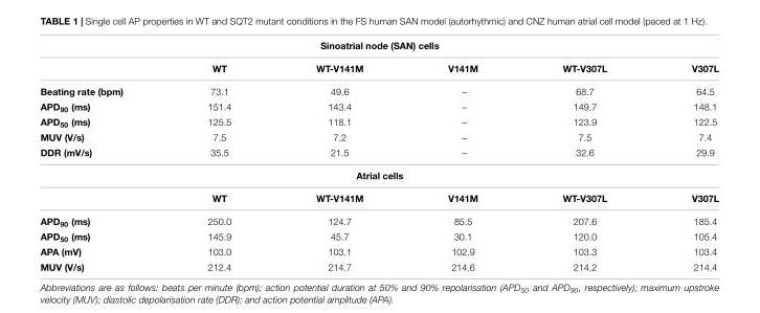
<table><thead><tr><td colspan="6">Sinoatrial node (SAN) cells</td></tr><tr><td></td><td>WT</td><td>WT-V141M</td><td>V141M</td><td>WT-V307L</td><td>V307L</td></tr></thead><tbody><tr><td>Beating rate (bpm)</td><td>73.1</td><td>49.6</td><td>–</td><td>68.7</td><td>64.5</td></tr><tr><td>APD<sub>90</sub> (ms)</td><td>151.4</td><td>143.4</td><td>–</td><td>149.7</td><td>148.1</td></tr><tr><td>APD<sub>50</sub> (ms)</td><td>125.5</td><td>118.1</td><td>–</td><td>123.9</td><td>122.5</td></tr><tr><td>MUV (V/s)</td><td>7.5</td><td>7.2</td><td>–</td><td>7.5</td><td>7.4</td></tr><tr><td>DDR (mV/s)</td><td>35.5</td><td>21.5</td><td>–</td><td>32.6</td><td>29.9</td></tr><tr><td colspan="6">Atrial cells</td></tr><tr><td></td><td>WT</td><td>WT-V141M</td><td>V141M</td><td>WT-V307L</td><td>V307L</td></tr><tr><td>APD<sub>90</sub> (ms)</td><td>250.0</td><td>124.7</td><td>85.5</td><td>207.6</td><td>185.4</td></tr><tr><td>APD<sub>50</sub> (ms)</td><td>145.9</td><td>45.7</td><td>30.1</td><td>120.0</td><td>105.4</td></tr><tr><td>APA (mV)</td><td>103.0</td><td>103.1</td><td>102.9</td><td>103.3</td><td>103.4</td></tr><tr><td>MUV (V/s)</td><td>212.4</td><td>214.7</td><td>214.6</td><td>214.2</td><td>214.4</td></tr></tbody></table>